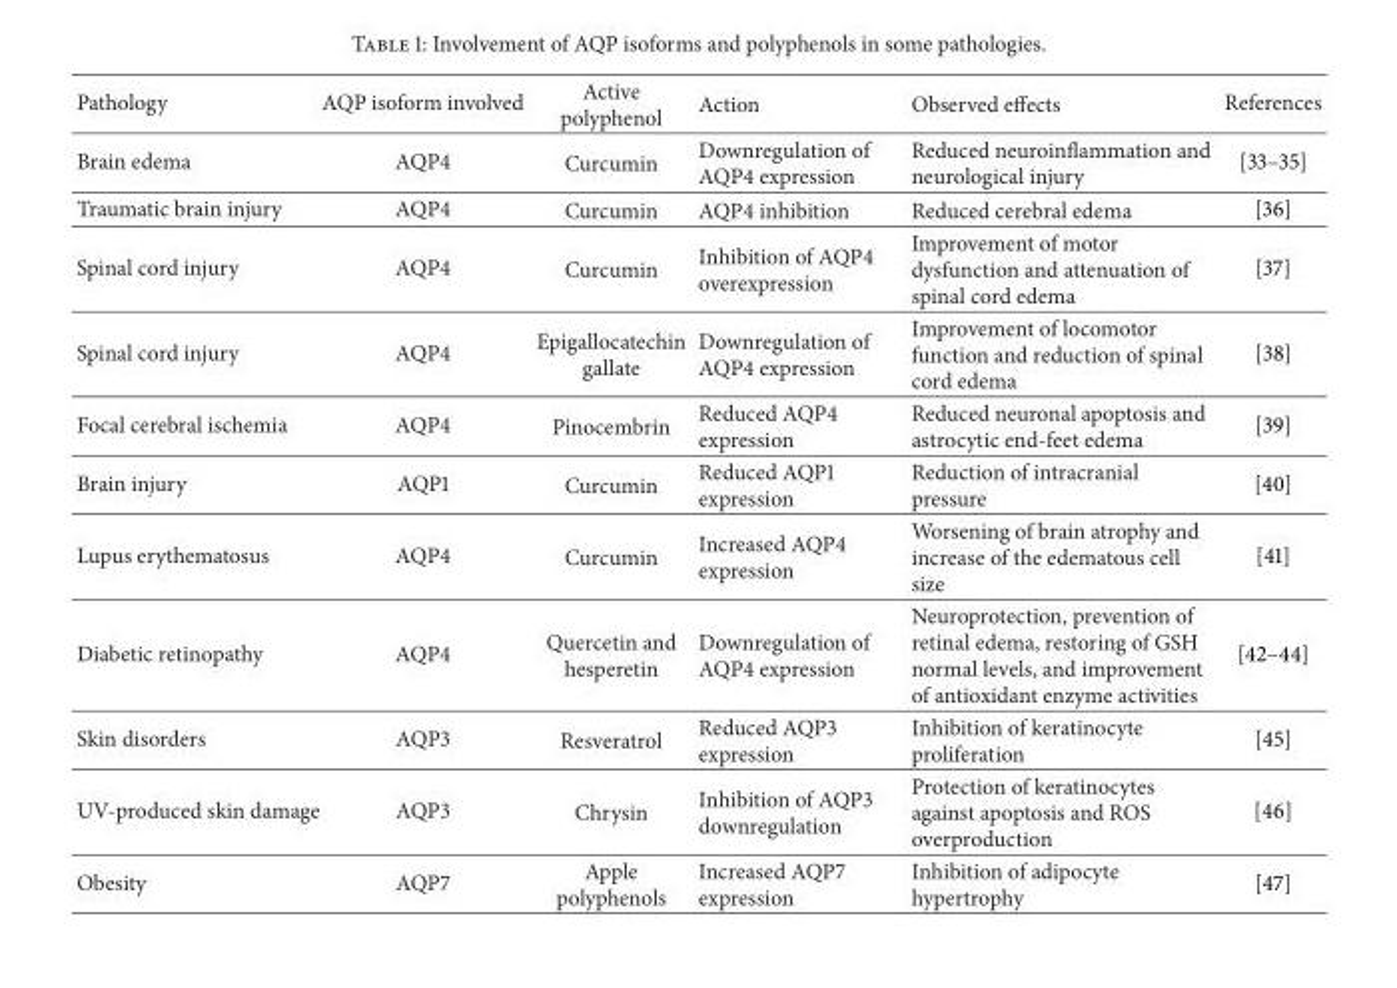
<table><thead><tr><td>Pathology</td><td>AQP isoform involved</td><td>Active polyphenol</td><td>Action</td><td>Observed effects</td><td>References</td></tr></thead><tbody><tr><td>Brain edema</td><td>AQP4</td><td>Curcumin</td><td>Downregulation of AQP4 expression</td><td>Reduced neuroinflammation and neurological injury</td><td>[33–35]</td></tr><tr><td>Traumatic brain injury</td><td>AQP4</td><td>Curcumin</td><td>AQP4 inhibition</td><td>Reduced cerebral edema</td><td>[36]</td></tr><tr><td>Spinal cord injury</td><td>AQP4</td><td>Curcumin</td><td>Inhibition of AQP4 overexpression</td><td>Improvement of motor dysfunction and attenuation of spinal cord edema</td><td>[37]</td></tr><tr><td>Spinal cord injury</td><td>AQP4</td><td>Epigallocatechin gallate</td><td>Downregulation of AQP4 expression</td><td>Improvement of locomotor function and reduction of spinal cord edema</td><td>[38]</td></tr><tr><td>Focal cerebral ischemia</td><td>AQP4</td><td>Pinocembrin</td><td>Reduced AQP4 expression</td><td>Reduced neuronal apoptosis and astrocytic end-feet edema</td><td>[39]</td></tr><tr><td>Brain injury</td><td>AQP1</td><td>Curcumin</td><td>Reduced AQP1 expression</td><td>Reduction of intracranial pressure</td><td>[40]</td></tr><tr><td>Lupus erythematosus</td><td>AQP4</td><td>Curcumin</td><td>Increased AQP4 expression</td><td>Worsening of brain atrophy and increase of the edematous cell size</td><td>[41]</td></tr><tr><td>Diabetic retinopathy</td><td>AQP4</td><td>Quercetin and hesperetin</td><td>Downregulation of AQP4 expression</td><td>Neuroprotection, prevention of retinal edema, restoring of GSH normal levels, and improvement of antioxidant enzyme activities</td><td>[42–44]</td></tr><tr><td>Skin disorders</td><td>AQP3</td><td>Resveratrol</td><td>Reduced AQP3 expression</td><td>Inhibition of keratinocyte proliferation</td><td>[45]</td></tr><tr><td>UV-produced skin damage</td><td>AQP3</td><td>Chrysin</td><td>Inhibition of AQP3 downregulation</td><td>Protection of keratinocytes against apoptosis and ROS overproduction</td><td>[46]</td></tr><tr><td>Obesity</td><td>AQP7</td><td>Apple polyphenols</td><td>Increased AQP7 expression</td><td>Inhibition of adipocyte hypertrophy</td><td>[47]</td></tr></tbody></table>